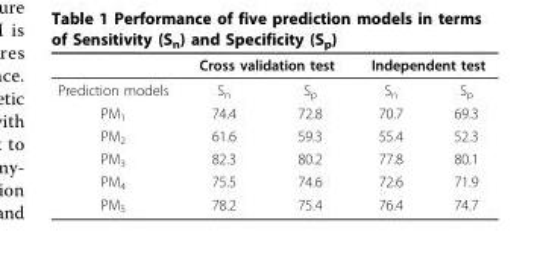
<table><thead><tr><td rowspan="2">Prediction models</td><td colspan="2">Cross validation test</td><td colspan="2">Independent test</td></tr><tr><td>S<sub>n</sub></td><td>S<sub>p</sub></td><td>S<sub>n</sub></td><td>S<sub>p</sub></td></tr></thead><tbody><tr><td>PM<sub>1</sub></td><td>74.4</td><td>72.8</td><td>70.7</td><td>69.3</td></tr><tr><td>PM<sub>2</sub></td><td>61.6</td><td>59.3</td><td>55.4</td><td>52.3</td></tr><tr><td>PM<sub>3</sub></td><td>82.3</td><td>80.2</td><td>77.8</td><td>80.1</td></tr><tr><td>PM<sub>4</sub></td><td>75.5</td><td>74.6</td><td>72.6</td><td>71.9</td></tr><tr><td>PM<sub>5</sub></td><td>78.2</td><td>75.4</td><td>76.4</td><td>74.7</td></tr></tbody></table>